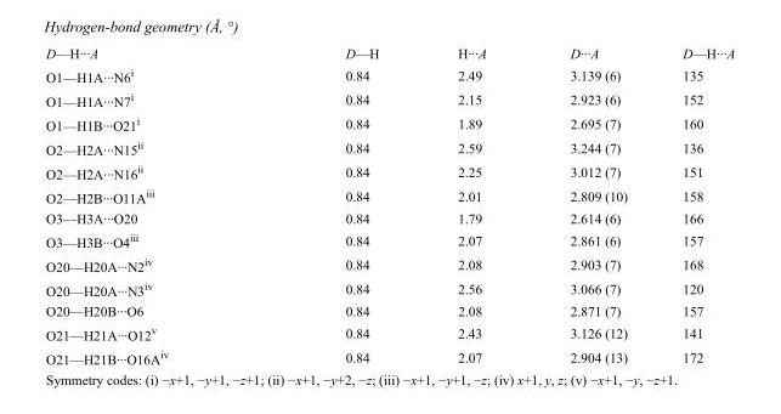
<table><tbody><tr><td>D—H···A</td><td>D—H</td><td>H···A</td><td>D···A</td><td>D—H···A</td></tr><tr><td>O1—H1A···N6<sup>i</sup></td><td>0.84</td><td>2.49</td><td>3.139 (6)</td><td>135</td></tr><tr><td>O1—H1A···N7<sup>i</sup></td><td>0.84</td><td>2.15</td><td>2.923 (6)</td><td>152</td></tr><tr><td>O1—H1B···O21<sup>i</sup></td><td>0.84</td><td>1.89</td><td>2.695 (7)</td><td>160</td></tr><tr><td>O2—H2A···N15<sup>ii</sup></td><td>0.84</td><td>2.59</td><td>3.244 (7)</td><td>136</td></tr><tr><td>O2—H2A···N16<sup>ii</sup></td><td>0.84</td><td>2.25</td><td>3.012 (7)</td><td>151</td></tr><tr><td>O2—H2B···O11A<sup>iii</sup></td><td>0.84</td><td>2.01</td><td>2.809 (10)</td><td>158</td></tr><tr><td>O3—H3A···O20</td><td>0.84</td><td>1.79</td><td>2.614 (6)</td><td>166</td></tr><tr><td>O3—H3B···O4<sup>iii</sup></td><td>0.84</td><td>2.07</td><td>2.861 (6)</td><td>157</td></tr><tr><td>O20—H20A···N2<sup>iv</sup></td><td>0.84</td><td>2.08</td><td>2.903 (7)</td><td>168</td></tr><tr><td>O20—H20A···N3<sup>iv</sup></td><td>0.84</td><td>2.56</td><td>3.066 (7)</td><td>120</td></tr><tr><td>O20—H20B···O6</td><td>0.84</td><td>2.08</td><td>2.871 (7)</td><td>157</td></tr><tr><td>O21—H21A···O12<sup>v</sup></td><td>0.84</td><td>2.43</td><td>3.126 (12)</td><td>141</td></tr><tr><td>O21—H21B···O16A<sup>iv</sup></td><td>0.84</td><td>2.07</td><td>2.904 (13)</td><td>172</td></tr></tbody></table>